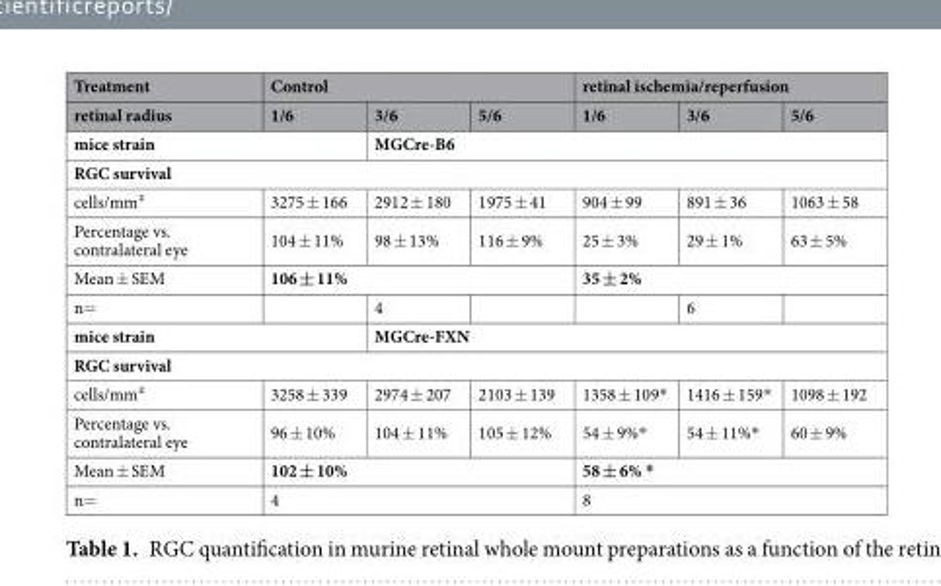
<table><thead><tr><td rowspan="2">Treatment retinal radius</td><td colspan="3">Control</td><td colspan="3">retinal ischemia/reperfusion</td></tr><tr><td>1/6</td><td>3/6</td><td>5/6</td><td>1/6</td><td>3/6</td><td>5/6</td></tr></thead><tbody><tr><td colspan="2">mice strain</td><td colspan="5">MGCre-B6</td></tr><tr><td colspan="7">RGC survival</td></tr><tr><td>cells/mm²</td><td>3275 ± 166</td><td>2912 ± 180</td><td>1975 ± 41</td><td>904 ± 99</td><td>891 ± 36</td><td>1063 ± 58</td></tr><tr><td>Percentage vs. contralateral eye</td><td>104 ± 11%</td><td>98 ± 13%</td><td>116 ± 9%</td><td>25 ± 3%</td><td>29 ± 1%</td><td>63 ± 5%</td></tr><tr><td>Mean ± SEM</td><td colspan="3">106 ± 11%</td><td colspan="3">35 ± 2%</td></tr><tr><td>n=</td><td></td><td>4</td><td></td><td></td><td>6</td><td></td></tr><tr><td colspan="2">mice strain</td><td colspan="5">MGCre-FXN</td></tr><tr><td colspan="7">RGC survival</td></tr><tr><td>cells/mm²</td><td>3258 ± 339</td><td>2974 ± 207</td><td>2103 ± 139</td><td>1358 ± 109*</td><td>1416 ± 159*</td><td>1098 ± 192</td></tr><tr><td>Percentage vs. contralateral eye</td><td>96 ± 10%</td><td>104 ± 11%</td><td>105 ± 12%</td><td>54 ± 9%*</td><td>54 ± 11%*</td><td>60 ± 9%</td></tr><tr><td>Mean ± SEM</td><td colspan="3">102 ± 10%</td><td colspan="3">58 ± 6% *</td></tr><tr><td>n=</td><td colspan="3">4</td><td colspan="3">8</td></tr></tbody></table>